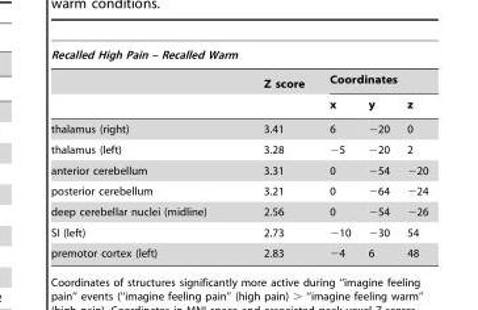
<table><thead><tr><td colspan="5">Recalled High Pain – Recalled Warm</td></tr><tr><td rowspan="2"></td><td rowspan="2">Z score</td><td colspan="3">Coordinates</td></tr><tr><td>x</td><td>y</td><td>z</td></tr></thead><tbody><tr><td>thalamus (right)</td><td>3.41</td><td>6</td><td>−20</td><td>0</td></tr><tr><td>thalamus (left)</td><td>3.28</td><td>−5</td><td>−20</td><td>2</td></tr><tr><td>anterior cerebellum</td><td>3.31</td><td>0</td><td>−54</td><td>−20</td></tr><tr><td>posterior cerebellum</td><td>3.21</td><td>0</td><td>−64</td><td>−24</td></tr><tr><td>deep cerebellar nuclei (midline)</td><td>2.56</td><td>0</td><td>−54</td><td>−26</td></tr><tr><td>SI (left)</td><td>2.73</td><td>−10</td><td>−30</td><td>54</td></tr><tr><td>premotor cortex (left)</td><td>2.83</td><td>−4</td><td>6</td><td>48</td></tr></tbody></table>